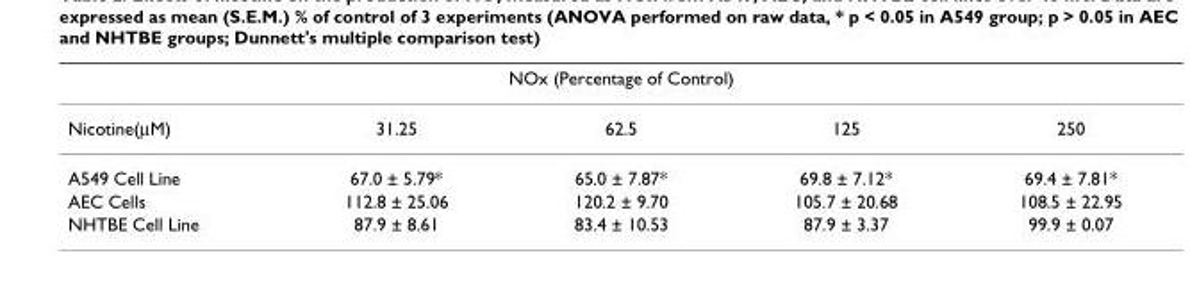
<table><thead><tr><td colspan="5">NOx (Percentage of Control)</td></tr><tr><td>Nicotine(µM)</td><td>31.25</td><td>62.5</td><td>125</td><td>250</td></tr></thead><tbody><tr><td>A549 Cell Line</td><td>67.0 ± 5.79*</td><td>65.0 ± 7.87*</td><td>69.8 ± 7.12*</td><td>69.4 ± 7.81*</td></tr><tr><td>AEC Cells</td><td>112.8 ± 25.06</td><td>120.2 ± 9.70</td><td>105.7 ± 20.68</td><td>108.5 ± 22.95</td></tr><tr><td>NHTBE Cell Line</td><td>87.9 ± 8.61</td><td>83.4 ± 10.53</td><td>87.9 ± 3.37</td><td>99.9 ± 0.07</td></tr></tbody></table>